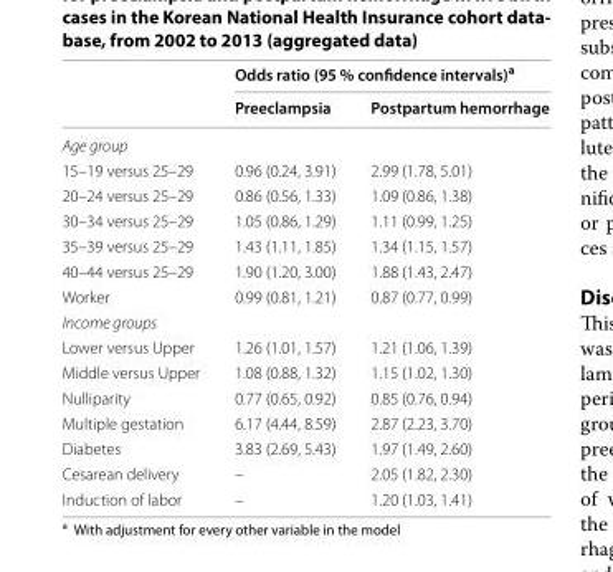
<table><thead><tr><td rowspan="2"></td><td colspan="2">Odds ratio (95 % confidence intervals)<sup>a</sup></td></tr><tr><td>Preeclampsia</td><td>Postpartum hemorrhage</td></tr></thead><tbody><tr><td colspan="3">Age group</td></tr><tr><td>15–19 versus 25–29</td><td>0.96 (0.24, 3.91)</td><td>2.99 (1.78, 5.01)</td></tr><tr><td>20–24 versus 25–29</td><td>0.86 (0.56, 1.33)</td><td>1.09 (0.86, 1.38)</td></tr><tr><td>30–34 versus 25–29</td><td>1.05 (0.86, 1.29)</td><td>1.11 (0.99, 1.25)</td></tr><tr><td>35–39 versus 25–29</td><td>1.43 (1.11, 1.85)</td><td>1.34 (1.15, 1.57)</td></tr><tr><td>40–44 versus 25–29</td><td>1.90 (1.20, 3.00)</td><td>1.88 (1.43, 2.47)</td></tr><tr><td>Worker</td><td>0.99 (0.81, 1.21)</td><td>0.87 (0.77, 0.99)</td></tr><tr><td colspan="3">Income groups</td></tr><tr><td>Lower versus Upper</td><td>1.26 (1.01, 1.57)</td><td>1.21 (1.06, 1.39)</td></tr><tr><td>Middle versus Upper</td><td>1.08 (0.88, 1.32)</td><td>1.15 (1.02, 1.30)</td></tr><tr><td>Nulliparity</td><td>0.77 (0.65, 0.92)</td><td>0.85 (0.76, 0.94)</td></tr><tr><td>Multiple gestation</td><td>6.17 (4.44, 8.59)</td><td>2.87 (2.23, 3.70)</td></tr><tr><td>Diabetes</td><td>3.83 (2.69, 5.43)</td><td>1.97 (1.49, 2.60)</td></tr><tr><td>Cesarean delivery</td><td>–</td><td>2.05 (1.82, 2.30)</td></tr><tr><td>Induction of labor</td><td>–</td><td>1.20 (1.03, 1.41)</td></tr></tbody></table>